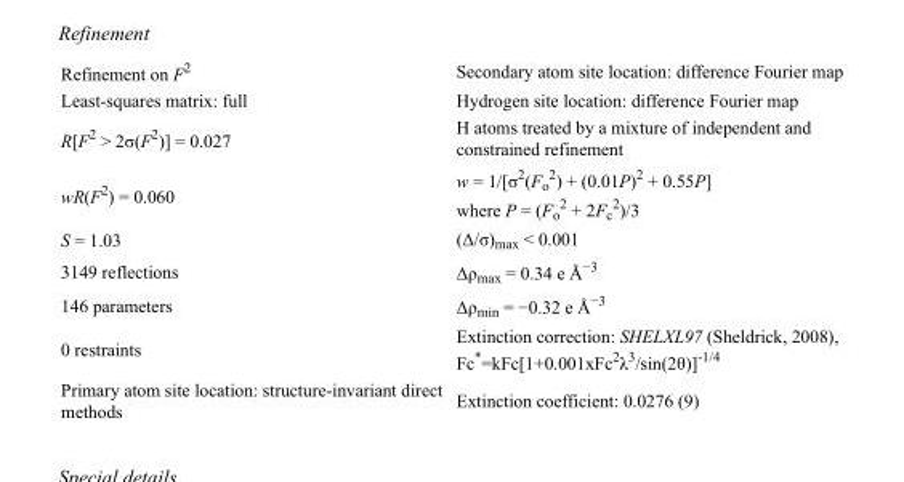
<table><tbody><tr><td>Refinement on F<sup>2</sup></td><td>Secondary atom site location: difference Fourier map</td></tr><tr><td>Least-squares matrix: full</td><td>Hydrogen site location: difference Fourier map</td></tr><tr><td>R[F<sup>2</sup> &gt; 2σ(F<sup>2</sup>)] = 0.027</td><td>H atoms treated by a mixture of independent and constrained refinement</td></tr><tr><td>wR(F<sup>2</sup>) = 0.060</td><td>w = 1/[σ<sup>2</sup>(F<sub>o</sub> <sup>2</sup>) + (0.01P)<sup>2</sup> + 0.55P] where P = (F<sub>o</sub> <sup>2</sup> + 2F<sub>c</sub> <sup>2</sup>)/3</td></tr><tr><td>S = 1.03</td><td>(Δ/σ)<sub>max</sub> &lt; 0.001</td></tr><tr><td>3149 reflections</td><td>Δρ<sub>max</sub> = 0.34 e Å<sup>−3</sup></td></tr><tr><td>146 parameters</td><td>Δρ<sub>min</sub> = −0.32 e Å<sup>−3</sup></td></tr><tr><td>0 restraints</td><td>Extinction correction: SHELXL97 (Sheldrick, 2008), Fc*=kFc[1+0.001xFc<sup>2</sup>λ<sup>3</sup>/sin(2θ)]<sup>-1/4</sup></td></tr><tr><td>Primary atom site location: structure-invariant direct methods</td><td>Extinction coefficient: 0.0276 (9)</td></tr></tbody></table>